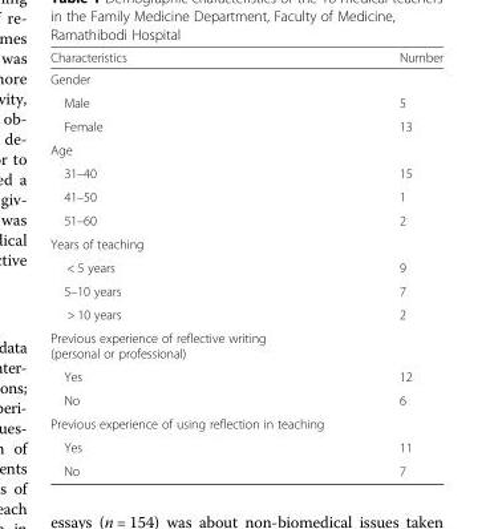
<table><thead><tr><td>Characteristics</td><td>Number</td></tr></thead><tbody><tr><td colspan="2">Gender</td></tr><tr><td>Male</td><td>5</td></tr><tr><td>Female</td><td>13</td></tr><tr><td colspan="2">Age</td></tr><tr><td>31–40</td><td>15</td></tr><tr><td>41–50</td><td>1</td></tr><tr><td>51–60</td><td>2</td></tr><tr><td colspan="2">Years of teaching</td></tr><tr><td>&lt; 5 years</td><td>9</td></tr><tr><td>5–10 years</td><td>7</td></tr><tr><td>&gt; 10 years</td><td>2</td></tr><tr><td colspan="2">Previous experience of reflective writing (personal or professional)</td></tr><tr><td>Yes</td><td>12</td></tr><tr><td>No</td><td>6</td></tr><tr><td colspan="2">Previous experience of using reflection in teaching</td></tr><tr><td>Yes</td><td>11</td></tr><tr><td>No</td><td>7</td></tr></tbody></table>